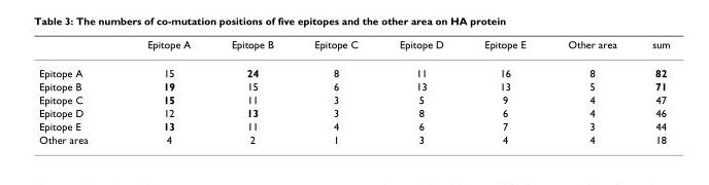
<table><thead><tr><td></td><td>Epitope A</td><td>Epitope B</td><td>Epitope C</td><td>Epitope D</td><td>Epitope E</td><td>Other area</td><td>sum</td></tr></thead><tbody><tr><td>Epitope A</td><td>15</td><td>24</td><td>8</td><td>11</td><td>16</td><td>8</td><td>82</td></tr><tr><td>Epitope B</td><td>19</td><td>15</td><td>6</td><td>13</td><td>13</td><td>5</td><td>71</td></tr><tr><td>Epitope C</td><td>15</td><td>11</td><td>3</td><td>5</td><td>9</td><td>4</td><td>47</td></tr><tr><td>Epitope D</td><td>12</td><td>13</td><td>3</td><td>8</td><td>6</td><td>4</td><td>46</td></tr><tr><td>Epitope E</td><td>13</td><td>11</td><td>4</td><td>6</td><td>7</td><td>3</td><td>44</td></tr><tr><td>Other area</td><td>4</td><td>2</td><td>1</td><td>3</td><td>4</td><td>4</td><td>18</td></tr></tbody></table>